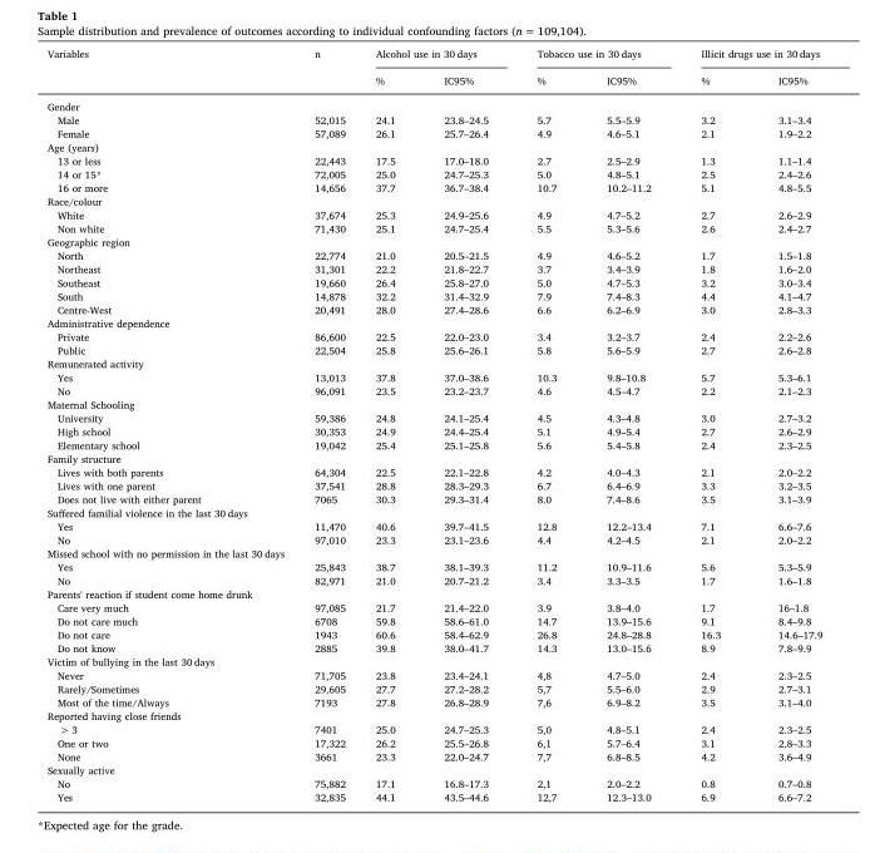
<table><thead><tr><td rowspan="2">Variables</td><td rowspan="2">n</td><td colspan="2">Alcohol use in 30 days</td><td colspan="2">Tobacco use in 30 days</td><td colspan="2">Illicit drugs use in 30 days</td></tr><tr><td>%</td><td>IC95%</td><td>%</td><td>IC95%</td><td>%</td><td>IC95%</td></tr></thead><tbody><tr><td colspan="8">Gender</td></tr><tr><td>Male</td><td>52,015</td><td>24.1</td><td>23.8–24.5</td><td>5.7</td><td>5.5–5.9</td><td>3.2</td><td>3.1–3.4</td></tr><tr><td>Female</td><td>57,089</td><td>26.1</td><td>25.7–26.4</td><td>4.9</td><td>4.6–5.1</td><td>2.1</td><td>1.9–2.2</td></tr><tr><td colspan="8">Age (years)</td></tr><tr><td>13 or less</td><td>22,443</td><td>17.5</td><td>17.0–18.0</td><td>2.7</td><td>2.5–2.9</td><td>1.3</td><td>1.1–1.4</td></tr><tr><td>14 or 15*</td><td>72,005</td><td>25.0</td><td>24.7–25.3</td><td>5.0</td><td>4.8–5.1</td><td>2.5</td><td>2.4–2.6</td></tr><tr><td>16 or more</td><td>14,656</td><td>37.7</td><td>36.7–38.4</td><td>10.7</td><td>10.2–11.2</td><td>5.1</td><td>4.8–5.5</td></tr><tr><td colspan="8">Race/colour</td></tr><tr><td>White</td><td>37,674</td><td>25.3</td><td>24.9–25.6</td><td>4.9</td><td>4.7–5.2</td><td>2.7</td><td>2.6–2.9</td></tr><tr><td>Non white</td><td>71,430</td><td>25.1</td><td>24.7–25.4</td><td>5.5</td><td>5.3–5.6</td><td>2.6</td><td>2.4–2.7</td></tr><tr><td colspan="8">Geographic region</td></tr><tr><td>North</td><td>22,774</td><td>21.0</td><td>20.5–21.5</td><td>4.9</td><td>4.6–5.2</td><td>1.7</td><td>1.5–1.8</td></tr><tr><td>Northeast</td><td>31,301</td><td>22.2</td><td>21.8–22.7</td><td>3.7</td><td>3.4–3.9</td><td>1.8</td><td>1.6–2.0</td></tr><tr><td>Southeast</td><td>19,660</td><td>26.4</td><td>25.8–27.0</td><td>5.0</td><td>4.7–5.3</td><td>3.2</td><td>3.0–3.4</td></tr><tr><td>South</td><td>14,878</td><td>32.2</td><td>31.4–32.9</td><td>7.9</td><td>7.4–8.3</td><td>4.4</td><td>4.1–4.7</td></tr><tr><td>Centre-West</td><td>20,491</td><td>28.0</td><td>27.4–28.6</td><td>6.6</td><td>6.2–6.9</td><td>3.0</td><td>2.8–3.3</td></tr><tr><td colspan="8">Administrative dependence</td></tr><tr><td>Private</td><td>86,600</td><td>22.5</td><td>22.0–23.0</td><td>3.4</td><td>3.2–3.7</td><td>2.4</td><td>2.2–2.6</td></tr><tr><td>Public</td><td>22,504</td><td>25.8</td><td>25.6–26.1</td><td>5.8</td><td>5.6–5.9</td><td>2.7</td><td>2.6–2.8</td></tr><tr><td colspan="8">Remunerated activity</td></tr><tr><td>Yes</td><td>13,013</td><td>37.8</td><td>37.0–38.6</td><td>10.3</td><td>9.8–10.8</td><td>5.7</td><td>5.3–6.1</td></tr><tr><td>No</td><td>96,091</td><td>23.5</td><td>23.2–23.7</td><td>4.6</td><td>4.5–4.7</td><td>2.2</td><td>2.1–2.3</td></tr><tr><td colspan="8">Maternal Schooling</td></tr><tr><td>University</td><td>59,386</td><td>24.8</td><td>24.1–25.4</td><td>4.5</td><td>4.3–4.8</td><td>3.0</td><td>2.7–3.2</td></tr><tr><td>High school</td><td>30,353</td><td>24.9</td><td>24.4–25.4</td><td>5.1</td><td>4.9–5.4</td><td>2.7</td><td>2.6–2.9</td></tr><tr><td>Elementary school</td><td>19,042</td><td>25.4</td><td>25.1–25.8</td><td>5.6</td><td>5.4–5.8</td><td>2.4</td><td>2.3–2.5</td></tr><tr><td colspan="8">Family structure</td></tr><tr><td>Lives with both parents</td><td>64,304</td><td>22.5</td><td>22.1–22.8</td><td>4.2</td><td>4.0–4.3</td><td>2.1</td><td>2.0–2.2</td></tr><tr><td>Lives with one parent</td><td>37,541</td><td>28.8</td><td>28.3–29.3</td><td>6.7</td><td>6.4–6.9</td><td>3.3</td><td>3.2–3.5</td></tr><tr><td>Does not live with either parent</td><td>7065</td><td>30.3</td><td>29.3–31.4</td><td>8.0</td><td>7.4–8.6</td><td>3.5</td><td>3.1–3.9</td></tr><tr><td colspan="8">Suffered familial violence in the last 30 days</td></tr><tr><td>Yes</td><td>11,470</td><td>40.6</td><td>39.7–41.5</td><td>12.8</td><td>12.2–13.4</td><td>7.1</td><td>6.6–7.6</td></tr><tr><td>No</td><td>97,010</td><td>23.3</td><td>23.1–23.6</td><td>4.4</td><td>4.2–4.5</td><td>2.1</td><td>2.0–2.2</td></tr><tr><td colspan="8">Missed school with no permission in the last 30 days</td></tr><tr><td>Yes</td><td>25,843</td><td>38.7</td><td>38.1–39.3</td><td>11.2</td><td>10.9–11.6</td><td>5.6</td><td>5.3–5.9</td></tr><tr><td>No</td><td>82,971</td><td>21.0</td><td>20.7–21.2</td><td>3.4</td><td>3.3–3.5</td><td>1.7</td><td>1.6–1.8</td></tr><tr><td colspan="8">Parents&#x27; reaction if student come home drunk</td></tr><tr><td>Care very much</td><td>97,085</td><td>21.7</td><td>21.4–22.0</td><td>3.9</td><td>3.8–4.0</td><td>1.7</td><td>16–1.8</td></tr><tr><td>Do not care much</td><td>6708</td><td>59.8</td><td>58.6–61.0</td><td>14.7</td><td>13.9–15.6</td><td>9.1</td><td>8.4–9.8</td></tr><tr><td>Do not care</td><td>1943</td><td>60.6</td><td>58.4–62.9</td><td>26.8</td><td>24.8–28.8</td><td>16.3</td><td>14.6–17.9</td></tr><tr><td>Do not know</td><td>2885</td><td>39.8</td><td>38.0–41.7</td><td>14.3</td><td>13.0–15.6</td><td>8.9</td><td>7.8–9.9</td></tr><tr><td colspan="8">Victim of bullying in the last 30 days</td></tr><tr><td>Never</td><td>71,705</td><td>23.8</td><td>23.4–24.1</td><td>4,8</td><td>4.7–5.0</td><td>2.4</td><td>2.3–2.5</td></tr><tr><td>Rarely/Sometimes</td><td>29,605</td><td>27.7</td><td>27.2–28.2</td><td>5,7</td><td>5.5–6.0</td><td>2.9</td><td>2.7–3.1</td></tr><tr><td>Most of the time/Always</td><td>7193</td><td>27.8</td><td>26.8–28.9</td><td>7,6</td><td>6.9–8.2</td><td>3.5</td><td>3.1–4.0</td></tr><tr><td colspan="8">Reported having close friends</td></tr><tr><td>&gt; 3</td><td>7401</td><td>25.0</td><td>24.7–25.3</td><td>5,0</td><td>4.8–5.1</td><td>2.4</td><td>2.3–2.5</td></tr><tr><td>One or two</td><td>17,322</td><td>26.2</td><td>25.5–26.8</td><td>6,1</td><td>5.7–6.4</td><td>3.1</td><td>2.8–3.3</td></tr><tr><td>None</td><td>3661</td><td>23.3</td><td>22.0–24.7</td><td>7,7</td><td>6.8–8.5</td><td>4.2</td><td>3.6–4.9</td></tr><tr><td colspan="8">Sexually active</td></tr><tr><td>No</td><td>75,882</td><td>17.1</td><td>16.8–17.3</td><td>2,1</td><td>2.0–2.2</td><td>0.8</td><td>0.7–0.8</td></tr><tr><td>Yes</td><td>32,835</td><td>44.1</td><td>43.5–44.6</td><td>12,7</td><td>12.3–13.0</td><td>6.9</td><td>6.6–7.2</td></tr></tbody></table>